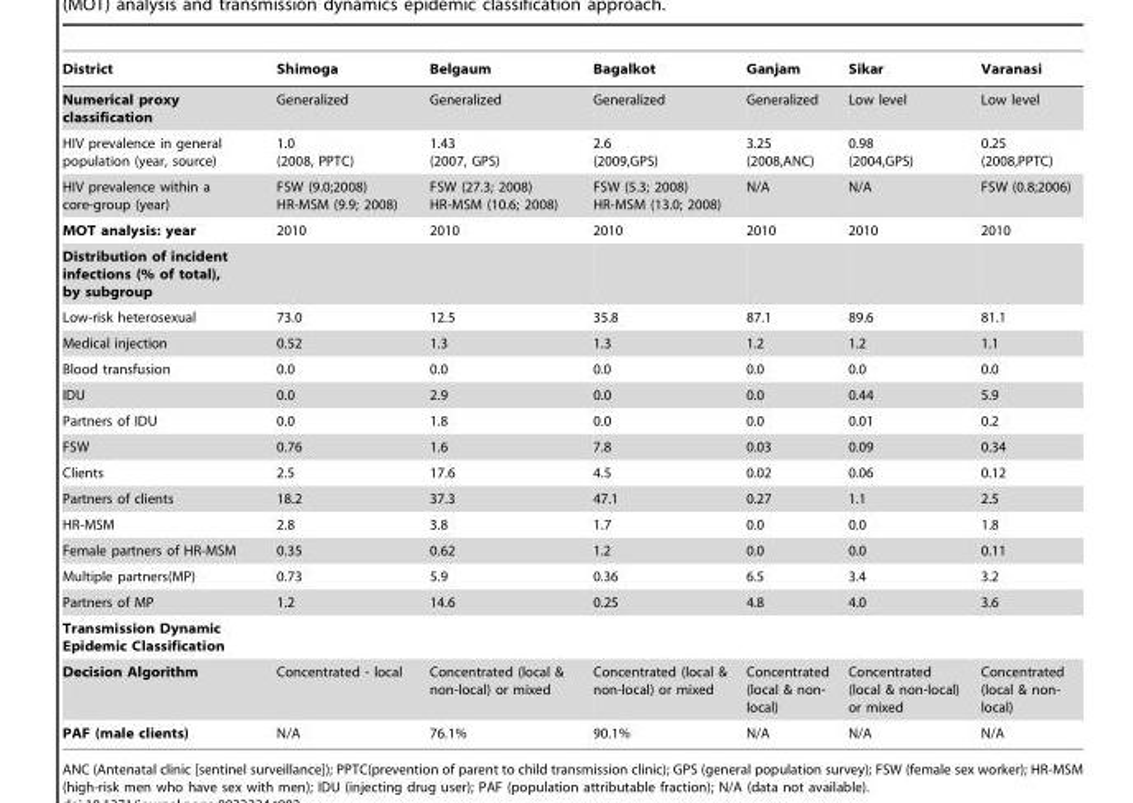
<table><thead><tr><td>District</td><td>Shimoga</td><td>Belgaum</td><td>Bagalkot</td><td>Ganjam</td><td>Sikar</td><td>Varanasi</td></tr></thead><tbody><tr><td>Numerical proxy classification</td><td>Generalized</td><td>Generalized</td><td>Generalized</td><td>Generalized</td><td>Low level</td><td>Low level</td></tr><tr><td>HIV prevalence in general population (year, source)</td><td>1.0 (2008, PPTC)</td><td>1.43 (2007, GPS)</td><td>2.6 (2009,GPS)</td><td>3.25 (2008,ANC)</td><td>0.98 (2004,GPS)</td><td>0.25 (2008,PPTC)</td></tr><tr><td>HIV prevalence within a core-group (year)</td><td>FSW (9.0;2008) HR-MSM (9.9; 2008)</td><td>FSW (27.3; 2008) HR-MSM (10.6; 2008)</td><td>FSW (5.3; 2008) HR-MSM (13.0; 2008)</td><td>N/A</td><td>N/A</td><td>FSW (0.8;2006)</td></tr><tr><td>MOT analysis: year</td><td>2010</td><td>2010</td><td>2010</td><td>2010</td><td>2010</td><td>2010</td></tr><tr><td colspan="7">Distribution of incident infections (% of total), by subgroup</td></tr><tr><td>Low-risk heterosexual</td><td>73.0</td><td>12.5</td><td>35.8</td><td>87.1</td><td>89.6</td><td>81.1</td></tr><tr><td>Medical injection</td><td>0.52</td><td>1.3</td><td>1.3</td><td>1.2</td><td>1.2</td><td>1.1</td></tr><tr><td>Blood transfusion</td><td>0.0</td><td>0.0</td><td>0.0</td><td>0.0</td><td>0.0</td><td>0.0</td></tr><tr><td>IDU</td><td>0.0</td><td>2.9</td><td>0.0</td><td>0.0</td><td>0.44</td><td>5.9</td></tr><tr><td>Partners of IDU</td><td>0.0</td><td>1.8</td><td>0.0</td><td>0.0</td><td>0.01</td><td>0.2</td></tr><tr><td>FSW</td><td>0.76</td><td>1.6</td><td>7.8</td><td>0.03</td><td>0.09</td><td>0.34</td></tr><tr><td>Clients</td><td>2.5</td><td>17.6</td><td>4.5</td><td>0.02</td><td>0.06</td><td>0.12</td></tr><tr><td>Partners of clients</td><td>18.2</td><td>37.3</td><td>47.1</td><td>0.27</td><td>1.1</td><td>2.5</td></tr><tr><td>HR-MSM</td><td>2.8</td><td>3.8</td><td>1.7</td><td>0.0</td><td>0.0</td><td>1.8</td></tr><tr><td>Female partners of HR-MSM</td><td>0.35</td><td>0.62</td><td>1.2</td><td>0.0</td><td>0.0</td><td>0.11</td></tr><tr><td>Multiple partners(MP)</td><td>0.73</td><td>5.9</td><td>0.36</td><td>6.5</td><td>3.4</td><td>3.2</td></tr><tr><td>Partners of MP</td><td>1.2</td><td>14.6</td><td>0.25</td><td>4.8</td><td>4.0</td><td>3.6</td></tr><tr><td colspan="7">Transmission Dynamic Epidemic Classification</td></tr><tr><td>Decision Algorithm</td><td>Concentrated - local</td><td>Concentrated (local &amp; non-local) or mixed</td><td>Concentrated (local &amp; non-local) or mixed</td><td>Concentrated (local &amp; non- local)</td><td>Concentrated (local &amp; non-local) or mixed</td><td>Concentrated (local &amp; non- local)</td></tr><tr><td>PAF (male clients)</td><td>N/A</td><td>76.1%</td><td>90.1%</td><td>N/A</td><td>N/A</td><td>N/A</td></tr></tbody></table>